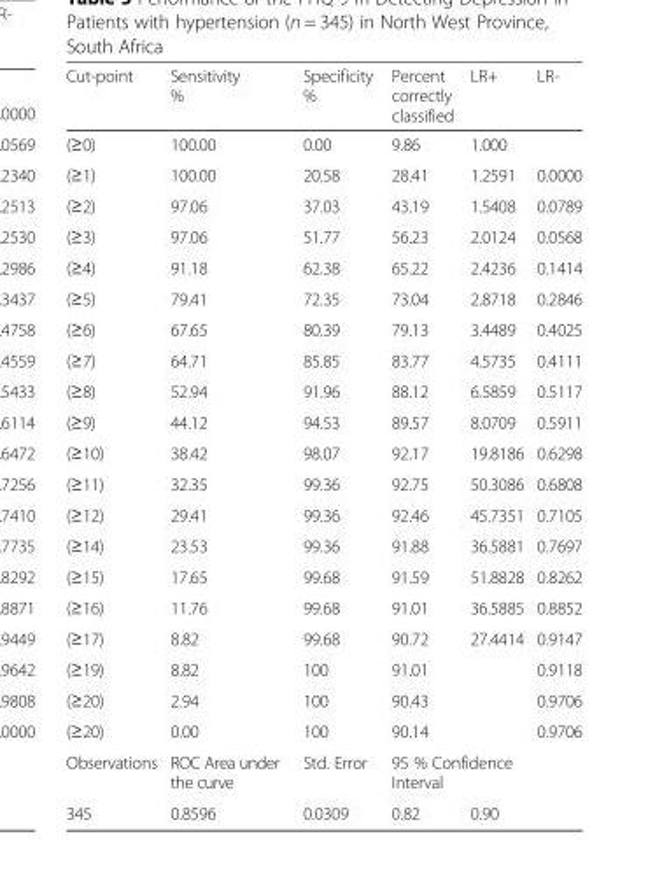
<table><thead><tr><td>Cut-point</td><td>Sensitivity %</td><td>Specificity %</td><td>Percent correctly classified</td><td>LR+</td><td>LR-</td></tr></thead><tbody><tr><td>(≥0)</td><td>100.00</td><td>0.00</td><td>9.86</td><td>1.000</td><td></td></tr><tr><td>(≥1)</td><td>100.00</td><td>20.58</td><td>28.41</td><td>1.2591</td><td>0.0000</td></tr><tr><td>(≥2)</td><td>97.06</td><td>37.03</td><td>43.19</td><td>1.5408</td><td>0.0789</td></tr><tr><td>(≥3)</td><td>97.06</td><td>51.77</td><td>56.23</td><td>2.0124</td><td>0.0568</td></tr><tr><td>(≥4)</td><td>91.18</td><td>62.38</td><td>65.22</td><td>2.4236</td><td>0.1414</td></tr><tr><td>(≥5)</td><td>79.41</td><td>72.35</td><td>73.04</td><td>2.8718</td><td>0.2846</td></tr><tr><td>(≥6)</td><td>67.65</td><td>80.39</td><td>79.13</td><td>3.4489</td><td>0.4025</td></tr><tr><td>(≥7)</td><td>64.71</td><td>85.85</td><td>83.77</td><td>4.5735</td><td>0.4111</td></tr><tr><td>(≥8)</td><td>52.94</td><td>91.96</td><td>88.12</td><td>6.5859</td><td>0.5117</td></tr><tr><td>(≥9)</td><td>44.12</td><td>94.53</td><td>89.57</td><td>8.0709</td><td>0.5911</td></tr><tr><td>(≥10)</td><td>38.42</td><td>98.07</td><td>92.17</td><td>19.8186</td><td>0.6298</td></tr><tr><td>(≥11)</td><td>32.35</td><td>99.36</td><td>92.75</td><td>50.3086</td><td>0.6808</td></tr><tr><td>(≥12)</td><td>29.41</td><td>99.36</td><td>92.46</td><td>45.7351</td><td>0.7105</td></tr><tr><td>(≥14)</td><td>23.53</td><td>99.36</td><td>91.88</td><td>36.5881</td><td>0.7697</td></tr><tr><td>(≥15)</td><td>17.65</td><td>99.68</td><td>91.59</td><td>51.8828</td><td>0.8262</td></tr><tr><td>(≥16)</td><td>11.76</td><td>99.68</td><td>91.01</td><td>36.5885</td><td>0.8852</td></tr><tr><td>(≥17)</td><td>8.82</td><td>99.68</td><td>90.72</td><td>27.4414</td><td>0.9147</td></tr><tr><td>(≥19)</td><td>8.82</td><td>100</td><td>91.01</td><td></td><td>0.9118</td></tr><tr><td>(≥20)</td><td>2.94</td><td>100</td><td>90.43</td><td></td><td>0.9706</td></tr><tr><td>(≥20)</td><td>0.00</td><td>100</td><td>90.14</td><td></td><td>0.9706</td></tr><tr><td>Observations</td><td>ROC Area under the curve</td><td>Std. Error</td><td colspan="3">95 % Confidence Interval</td></tr><tr><td>345</td><td>0.8596</td><td>0.0309</td><td>0.82</td><td colspan="2">0.90</td></tr></tbody></table>